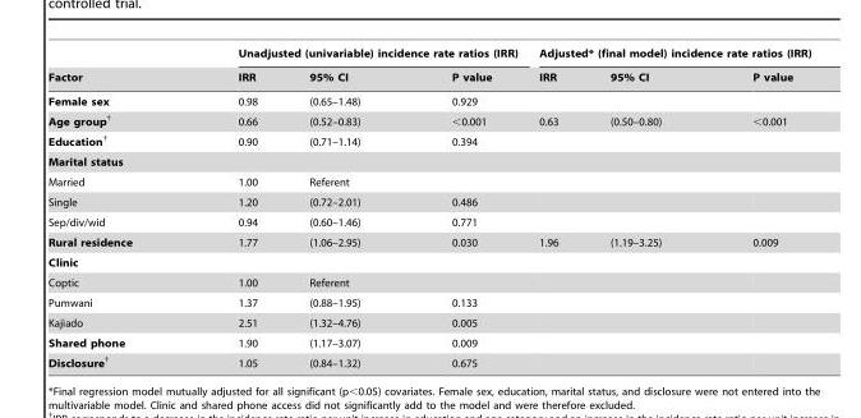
<table><thead><tr><td rowspan="2">Factor</td><td colspan="3">Unadjusted (univariable) incidence rate ratios (IRR)</td><td colspan="3">Adjusted* (final model) incidence rate ratios (IRR)</td></tr><tr><td>IRR</td><td>95% CI</td><td>P value</td><td>IRR</td><td>95% CI</td><td>P value</td></tr></thead><tbody><tr><td>Female sex</td><td>0.98</td><td>(0.65–1.48)</td><td>0.929</td><td></td><td></td><td></td></tr><tr><td>Age group†</td><td>0.66</td><td>(0.52–0.83)</td><td>&lt;0.001</td><td>0.63</td><td>(0.50–0.80)</td><td>&lt;0.001</td></tr><tr><td>Education†</td><td>0.90</td><td>(0.71–1.14)</td><td>0.394</td><td></td><td></td><td></td></tr><tr><td colspan="7">Marital status</td></tr><tr><td>Married</td><td>1.00</td><td>Referent</td><td></td><td></td><td></td><td></td></tr><tr><td>Single</td><td>1.20</td><td>(0.72–2.01)</td><td>0.486</td><td></td><td></td><td></td></tr><tr><td>Sep/div/wid</td><td>0.94</td><td>(0.60–1.46)</td><td>0.771</td><td></td><td></td><td></td></tr><tr><td>Rural residence</td><td>1.77</td><td>(1.06–2.95)</td><td>0.030</td><td>1.96</td><td>(1.19–3.25)</td><td>0.009</td></tr><tr><td colspan="7">Clinic</td></tr><tr><td>Coptic</td><td>1.00</td><td>Referent</td><td></td><td></td><td></td><td></td></tr><tr><td>Pumwani</td><td>1.37</td><td>(0.88–1.95)</td><td>0.133</td><td></td><td></td><td></td></tr><tr><td>Kajiado</td><td>2.51</td><td>(1.32–4.76)</td><td>0.005</td><td></td><td></td><td></td></tr><tr><td>Shared phone</td><td>1.90</td><td>(1.17–3.07)</td><td>0.009</td><td></td><td></td><td></td></tr><tr><td>Disclosure†</td><td>1.05</td><td>(0.84–1.32)</td><td>0.675</td><td></td><td></td><td></td></tr></tbody></table>